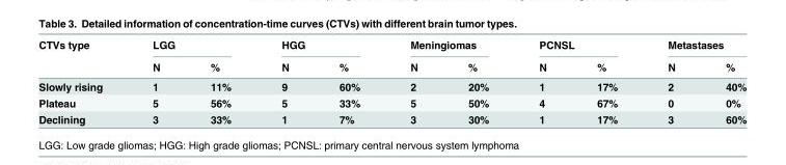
<table><thead><tr><td rowspan="2">CTVs type</td><td colspan="2">LGG</td><td colspan="2">HGG</td><td colspan="2">Meningiomas</td><td colspan="2">PCNSL</td><td colspan="2">Metastases</td></tr><tr><td>N</td><td>%</td><td>N</td><td>%</td><td>N</td><td>%</td><td>N</td><td>%</td><td>N</td><td>%</td></tr></thead><tbody><tr><td>Slowly rising</td><td>1</td><td>11%</td><td>9</td><td>60%</td><td>2</td><td>20%</td><td>1</td><td>17%</td><td>2</td><td>40%</td></tr><tr><td>Plateau</td><td>5</td><td>56%</td><td>5</td><td>33%</td><td>5</td><td>50%</td><td>4</td><td>67%</td><td>0</td><td>0%</td></tr><tr><td>Declining</td><td>3</td><td>33%</td><td>1</td><td>7%</td><td>3</td><td>30%</td><td>1</td><td>17%</td><td>3</td><td>60%</td></tr></tbody></table>